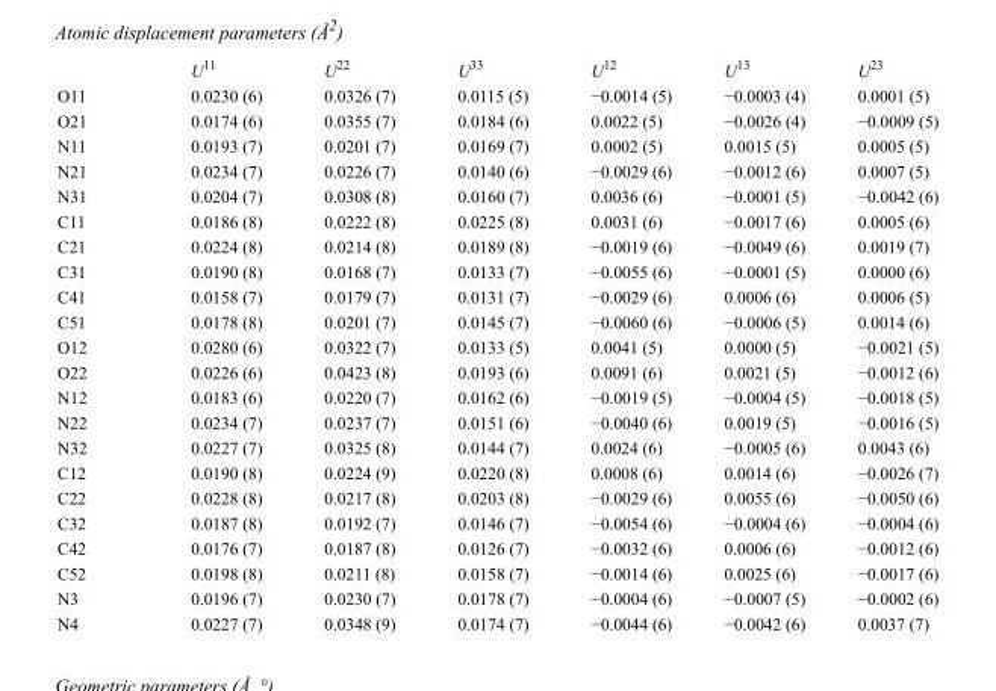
<table><thead><tr><td></td><td>U<sup>11</sup></td><td>U<sup>22</sup></td><td>U<sup>33</sup></td><td>U<sup>12</sup></td><td>U<sup>13</sup></td><td>U<sup>23</sup></td></tr></thead><tbody><tr><td>O11</td><td>0.0230 (6)</td><td>0.0326 (7)</td><td>0.0115 (5)</td><td>−0.0014 (5)</td><td>−0.0003 (4)</td><td>0.0001 (5)</td></tr><tr><td>O21</td><td>0.0174 (6)</td><td>0.0355 (7)</td><td>0.0184 (6)</td><td>0.0022 (5)</td><td>−0.0026 (4)</td><td>−0.0009 (5)</td></tr><tr><td>N11</td><td>0.0193 (7)</td><td>0.0201 (7)</td><td>0.0169 (7)</td><td>0.0002 (5)</td><td>0.0015 (5)</td><td>0.0005 (5)</td></tr><tr><td>N21</td><td>0.0234 (7)</td><td>0.0226 (7)</td><td>0.0140 (6)</td><td>−0.0029 (6)</td><td>−0.0012 (6)</td><td>0.0007 (5)</td></tr><tr><td>N31</td><td>0.0204 (7)</td><td>0.0308 (8)</td><td>0.0160 (7)</td><td>0.0036 (6)</td><td>−0.0001 (5)</td><td>−0.0042 (6)</td></tr><tr><td>C11</td><td>0.0186 (8)</td><td>0.0222 (8)</td><td>0.0225 (8)</td><td>0.0031 (6)</td><td>−0.0017 (6)</td><td>0.0005 (6)</td></tr><tr><td>C21</td><td>0.0224 (8)</td><td>0.0214 (8)</td><td>0.0189 (8)</td><td>−0.0019 (6)</td><td>−0.0049 (6)</td><td>0.0019 (7)</td></tr><tr><td>C31</td><td>0.0190 (8)</td><td>0.0168 (7)</td><td>0.0133 (7)</td><td>−0.0055 (6)</td><td>−0.0001 (5)</td><td>0.0000 (6)</td></tr><tr><td>C41</td><td>0.0158 (7)</td><td>0.0179 (7)</td><td>0.0131 (7)</td><td>−0.0029 (6)</td><td>0.0006 (6)</td><td>0.0006 (5)</td></tr><tr><td>C51</td><td>0.0178 (8)</td><td>0.0201 (7)</td><td>0.0145 (7)</td><td>−0.0060 (6)</td><td>−0.0006 (5)</td><td>0.0014 (6)</td></tr><tr><td>O12</td><td>0.0280 (6)</td><td>0.0322 (7)</td><td>0.0133 (5)</td><td>0.0041 (5)</td><td>0.0000 (5)</td><td>−0.0021 (5)</td></tr><tr><td>O22</td><td>0.0226 (6)</td><td>0.0423 (8)</td><td>0.0193 (6)</td><td>0.0091 (6)</td><td>0.0021 (5)</td><td>−0.0012 (6)</td></tr><tr><td>N12</td><td>0.0183 (6)</td><td>0.0220 (7)</td><td>0.0162 (6)</td><td>−0.0019 (5)</td><td>−0.0004 (5)</td><td>−0.0018 (5)</td></tr><tr><td>N22</td><td>0.0234 (7)</td><td>0.0237 (7)</td><td>0.0151 (6)</td><td>−0.0040 (6)</td><td>0.0019 (5)</td><td>−0.0016 (5)</td></tr><tr><td>N32</td><td>0.0227 (7)</td><td>0.0325 (8)</td><td>0.0144 (7)</td><td>0.0024 (6)</td><td>−0.0005 (6)</td><td>0.0043 (6)</td></tr><tr><td>C12</td><td>0.0190 (8)</td><td>0.0224 (9)</td><td>0.0220 (8)</td><td>0.0008 (6)</td><td>0.0014 (6)</td><td>−0.0026 (7)</td></tr><tr><td>C22</td><td>0.0228 (8)</td><td>0.0217 (8)</td><td>0.0203 (8)</td><td>−0.0029 (6)</td><td>0.0055 (6)</td><td>−0.0050 (6)</td></tr><tr><td>C32</td><td>0.0187 (8)</td><td>0.0192 (7)</td><td>0.0146 (7)</td><td>−0.0054 (6)</td><td>−0.0004 (6)</td><td>−0.0004 (6)</td></tr><tr><td>C42</td><td>0.0176 (7)</td><td>0.0187 (8)</td><td>0.0126 (7)</td><td>−0.0032 (6)</td><td>0.0006 (6)</td><td>−0.0012 (6)</td></tr><tr><td>C52</td><td>0.0198 (8)</td><td>0.0211 (8)</td><td>0.0158 (7)</td><td>−0.0014 (6)</td><td>0.0025 (6)</td><td>−0.0017 (6)</td></tr><tr><td>N3</td><td>0.0196 (7)</td><td>0.0230 (7)</td><td>0.0178 (7)</td><td>−0.0004 (6)</td><td>−0.0007 (5)</td><td>−0.0002 (6)</td></tr><tr><td>N4</td><td>0.0227 (7)</td><td>0.0348 (9)</td><td>0.0174 (7)</td><td>−0.0044 (6)</td><td>−0.0042 (6)</td><td>0.0037 (7)</td></tr></tbody></table>